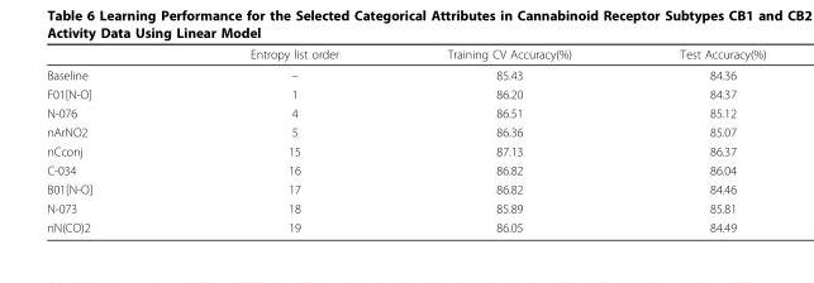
<table><thead><tr><td></td><td>Entropy list order</td><td>Training CV Accuracy(%)</td><td>Test Accuracy(%)</td></tr></thead><tbody><tr><td>Baseline</td><td>–</td><td>85.43</td><td>84.36</td></tr><tr><td>F01[N-O]</td><td>1</td><td>86.20</td><td>84.37</td></tr><tr><td>N-076</td><td>4</td><td>86.51</td><td>85.12</td></tr><tr><td>nArNO2</td><td>5</td><td>86.36</td><td>85.07</td></tr><tr><td>nCconj</td><td>15</td><td>87.13</td><td>86.37</td></tr><tr><td>C-034</td><td>16</td><td>86.82</td><td>86.04</td></tr><tr><td>B01[N-O]</td><td>17</td><td>86.82</td><td>84.46</td></tr><tr><td>N-073</td><td>18</td><td>85.89</td><td>85.81</td></tr><tr><td>nN(CO)2</td><td>19</td><td>86.05</td><td>84.49</td></tr></tbody></table>